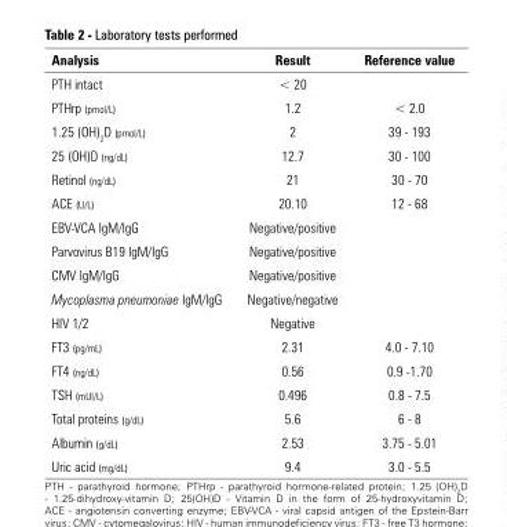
<table><thead><tr><td>Analysis</td><td>Result</td><td>Reference value</td></tr></thead><tbody><tr><td>PTH intact</td><td>&lt; 20</td><td></td></tr><tr><td>PTHrp (pmol/L)</td><td>1.2</td><td>&lt; 2.0</td></tr><tr><td>1.25 (OH)<sub>2</sub>D (pmol/L)</td><td>2</td><td>39 - 193</td></tr><tr><td>25 (OH)D (ng/dL)</td><td>12.7</td><td>30 - 100</td></tr><tr><td>Retinol (ng/dL)</td><td>21</td><td>30 - 70</td></tr><tr><td>ACE (U/L)</td><td>20.10</td><td>12 - 68</td></tr><tr><td>EBV-VCA IgM/IgG</td><td>Negative/positive</td><td></td></tr><tr><td>Parvovirus B19 IgM/IgG</td><td>Negative/positive</td><td></td></tr><tr><td>CMV IgM/IgG</td><td>Negative/positive</td><td></td></tr><tr><td>Mycoplasma pneumoniae IgM/IgG</td><td>Negative/negative</td><td></td></tr><tr><td>HIV 1/2</td><td>Negative</td><td></td></tr><tr><td>FT3 (pg/mL)</td><td>2.31</td><td>4.0 - 7.10</td></tr><tr><td>FT4 (ng/dL)</td><td>0.56</td><td>0.9 -1.70</td></tr><tr><td>TSH (mUI/L)</td><td>0.496</td><td>0.8 - 7.5</td></tr><tr><td>Total proteins (g/dL)</td><td>5.6</td><td>6 - 8</td></tr><tr><td>Albumin (g/dL)</td><td>2.53</td><td>3.75 - 5.01</td></tr><tr><td>Uric acid (mg/dL)</td><td>9.4</td><td>3.0 - 5.5</td></tr></tbody></table>